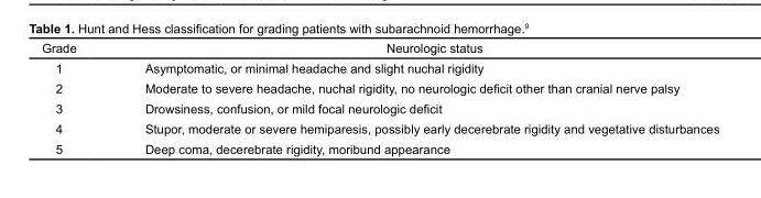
<table><thead><tr><td>Grade</td><td>Neurologic status</td></tr></thead><tbody><tr><td>1</td><td>Asymptomatic, or minimal headache and slight nuchal rigidity</td></tr><tr><td>2</td><td>Moderate to severe headache, nuchal rigidity, no neurologic deficit other than cranial nerve palsy</td></tr><tr><td>3</td><td>Drowsiness, confusion, or mild focal neurologic deficit</td></tr><tr><td>4</td><td>Stupor, moderate or severe hemiparesis, possibly early decerebrate rigidity and vegetative disturbances</td></tr><tr><td>5</td><td>Deep coma, decerebrate rigidity, moribund appearance</td></tr></tbody></table>